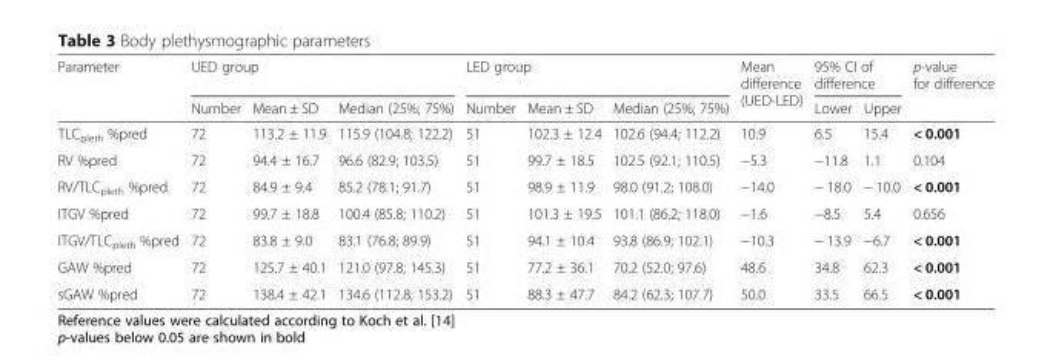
<table><thead><tr><td rowspan="2">Parameter</td><td colspan="3">UED group</td><td colspan="3">LED group</td><td rowspan="2">Mean difference (UED-LED)</td><td colspan="2">95% CI of difference</td><td rowspan="2">p-value for difference</td></tr><tr><td>Number</td><td>Mean ± SD</td><td>Median (25%; 75%)</td><td>Number</td><td>Mean ± SD</td><td>Median (25%; 75%)</td><td>Lower</td><td>Upper</td></tr></thead><tbody><tr><td>TLC<sub>pleth</sub> %pred</td><td>72</td><td>113.2 ± 11.9</td><td>115.9 (104.8; 122.2)</td><td>51</td><td>102.3 ± 12.4</td><td>102.6 (94.4; 112.2)</td><td>10.9</td><td>6.5</td><td>15.4</td><td>&lt; 0.001</td></tr><tr><td>RV %pred</td><td>72</td><td>94.4 ± 16.7</td><td>96.6 (82.9; 103.5)</td><td>51</td><td>99.7 ± 18.5</td><td>102.5 (92.1; 110.5)</td><td>−5.3</td><td>−11.8</td><td>1.1</td><td>0.104</td></tr><tr><td>RV/TLC<sub>pleth</sub> %pred</td><td>72</td><td>84.9 ± 9.4</td><td>85.2 (78.1; 91.7)</td><td>51</td><td>98.9 ± 11.9</td><td>98.0 (91.2; 108.0)</td><td>−14.0</td><td>− 18.0</td><td>− 10.0</td><td>&lt; 0.001</td></tr><tr><td>ITGV %pred</td><td>72</td><td>99.7 ± 18.8</td><td>100.4 (85.8; 110.2)</td><td>51</td><td>101.3 ± 19.5</td><td>101.1 (86.2; 118.0)</td><td>−1.6</td><td>−8.5</td><td>5.4</td><td>0.656</td></tr><tr><td>ITGV/TLC<sub>pleth</sub> %pred</td><td>72</td><td>83.8 ± 9.0</td><td>83.1 (76.8; 89.9)</td><td>51</td><td>94.1 ± 10.4</td><td>93.8 (86.9; 102.1)</td><td>−10.3</td><td>− 13.9</td><td>−6.7</td><td>&lt; 0.001</td></tr><tr><td>GAW %pred</td><td>72</td><td>125.7 ± 40.1</td><td>121.0 (97.8; 145.3)</td><td>51</td><td>77.2 ± 36.1</td><td>70.2 (52.0; 97.6)</td><td>48.6</td><td>34.8</td><td>62.3</td><td>&lt; 0.001</td></tr><tr><td>sGAW %pred</td><td>72</td><td>138.4 ± 42.1</td><td>134.6 (112.8; 153.2)</td><td>51</td><td>88.3 ± 47.7</td><td>84.2 (62.3; 107.7)</td><td>50.0</td><td>33.5</td><td>66.5</td><td>&lt; 0.001</td></tr></tbody></table>